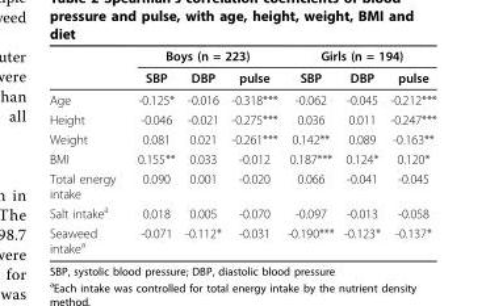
<table><thead><tr><td rowspan="2"></td><td colspan="3">Boys (n = 223)</td><td colspan="3">Girls (n = 194)</td></tr><tr><td>SBP</td><td>DBP</td><td>pulse</td><td>SBP</td><td>DBP</td><td>pulse</td></tr></thead><tbody><tr><td>Age</td><td>-0.125*</td><td>-0.016</td><td>-0.318***</td><td>-0.062</td><td>-0.045</td><td>-0.212***</td></tr><tr><td>Height</td><td>-0.046</td><td>-0.021</td><td>-0.275***</td><td>0.036</td><td>0.011</td><td>-0.247***</td></tr><tr><td>Weight</td><td>0.081</td><td>0.021</td><td>-0.261***</td><td>0.142**</td><td>0.089</td><td>-0.163**</td></tr><tr><td>BMI</td><td>0.155**</td><td>0.033</td><td>-0.012</td><td>0.187***</td><td>0.124*</td><td>0.120*</td></tr><tr><td>Total energy intake</td><td>0.090</td><td>0.001</td><td>-0.020</td><td>0.066</td><td>-0.041</td><td>-0.045</td></tr><tr><td>Salt intake<sup>a</sup></td><td>0.018</td><td>0.005</td><td>-0.070</td><td>-0.097</td><td>-0.013</td><td>-0.058</td></tr><tr><td>Seaweed intake<sup>a</sup></td><td>-0.071</td><td>-0.112*</td><td>-0.031</td><td>-0.190***</td><td>-0.123*</td><td>-0.137*</td></tr></tbody></table>